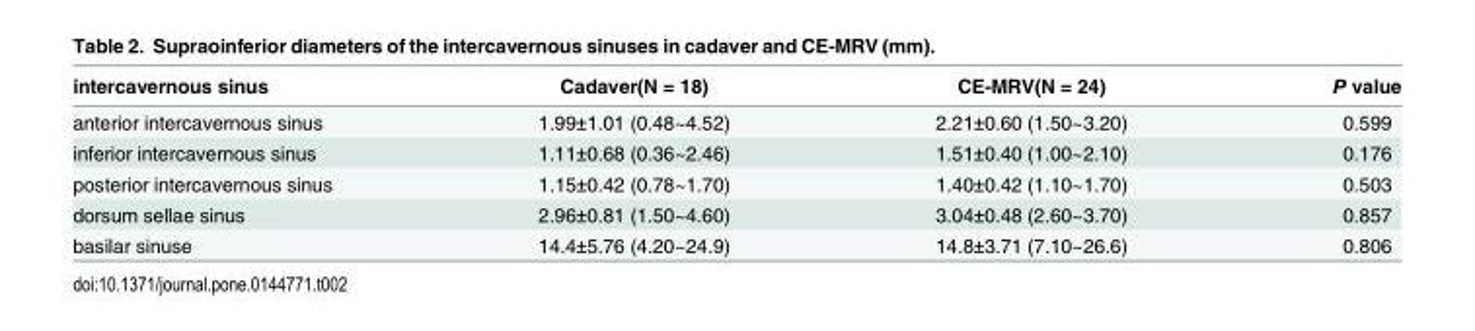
<table><thead><tr><td>intercavernous sinus</td><td>Cadaver(N = 18)</td><td>CE-MRV(N = 24)</td><td>P value</td></tr></thead><tbody><tr><td>anterior intercavernous sinus</td><td>1.99±1.01 (0.48~4.52)</td><td>2.21±0.60 (1.50~3.20)</td><td>0.599</td></tr><tr><td>inferior intercavernous sinus</td><td>1.11±0.68 (0.36~2.46)</td><td>1.51±0.40 (1.00~2.10)</td><td>0.176</td></tr><tr><td>posterior intercavernous sinus</td><td>1.15±0.42 (0.78~1.70)</td><td>1.40±0.42 (1.10~1.70)</td><td>0.503</td></tr><tr><td>dorsum sellae sinus</td><td>2.96±0.81 (1.50~4.60)</td><td>3.04±0.48 (2.60~3.70)</td><td>0.857</td></tr><tr><td>basilar sinuse</td><td>14.4±5.76 (4.20~24.9)</td><td>14.8±3.71 (7.10~26.6)</td><td>0.806</td></tr></tbody></table>